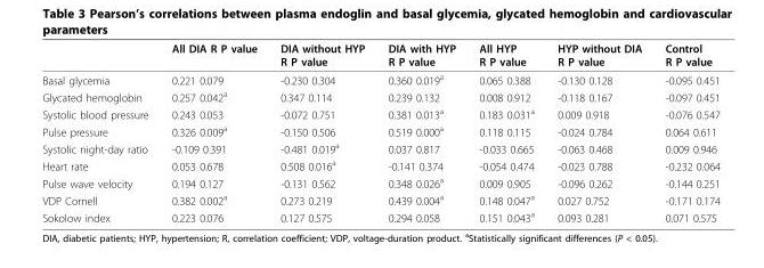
<table><thead><tr><td></td><td>All DIA R P value</td><td>DIA without HYP R P value</td><td>DIA with HYP R P value</td><td>All HYP R P value</td><td>HYP without DIA R P value</td><td>Control R P value</td></tr></thead><tbody><tr><td>Basal glycemia</td><td>0.221 0.079</td><td>-0.230 0.304</td><td>0.360 0.019<sup>a</sup></td><td>0.065 0.388</td><td>-0.130 0.128</td><td>-0.095 0.451</td></tr><tr><td>Glycated hemoglobin</td><td>0.257 0.042<sup>a</sup></td><td>0.347 0.114</td><td>0.239 0.132</td><td>0.008 0.912</td><td>-0.118 0.167</td><td>-0.097 0.451</td></tr><tr><td>Systolic blood pressure</td><td>0.243 0.053</td><td>-0.072 0.751</td><td>0.381 0.013<sup>a</sup></td><td>0.183 0.031<sup>a</sup></td><td>0.009 0.918</td><td>-0.076 0.547</td></tr><tr><td>Pulse pressure</td><td>0.326 0.009<sup>a</sup></td><td>-0.150 0.506</td><td>0.519 0.000<sup>a</sup></td><td>0.118 0.115</td><td>-0.024 0.784</td><td>0.064 0.611</td></tr><tr><td>Systolic night-day ratio</td><td>-0.109 0.391</td><td>-0.481 0.019<sup>a</sup></td><td>0.037 0.817</td><td>-0.033 0.665</td><td>-0.063 0.468</td><td>0.009 0.946</td></tr><tr><td>Heart rate</td><td>0.053 0.678</td><td>0.508 0.016<sup>a</sup></td><td>-0.141 0.374</td><td>-0.054 0.474</td><td>-0.023 0.788</td><td>-0.232 0.064</td></tr><tr><td>Pulse wave velocity</td><td>0.194 0.127</td><td>-0.131 0.562</td><td>0.348 0.026<sup>a</sup></td><td>0.009 0.905</td><td>-0.096 0.262</td><td>-0.144 0.251</td></tr><tr><td>VDP Cornell</td><td>0.382 0.002<sup>a</sup></td><td>0.273 0.219</td><td>0.439 0.004<sup>a</sup></td><td>0.148 0.047<sup>a</sup></td><td>0.027 0.752</td><td>-0.171 0.174</td></tr><tr><td>Sokolow index</td><td>0.223 0.076</td><td>0.127 0.575</td><td>0.294 0.058</td><td>0.151 0.043<sup>a</sup></td><td>0.093 0.281</td><td>0.071 0.575</td></tr></tbody></table>